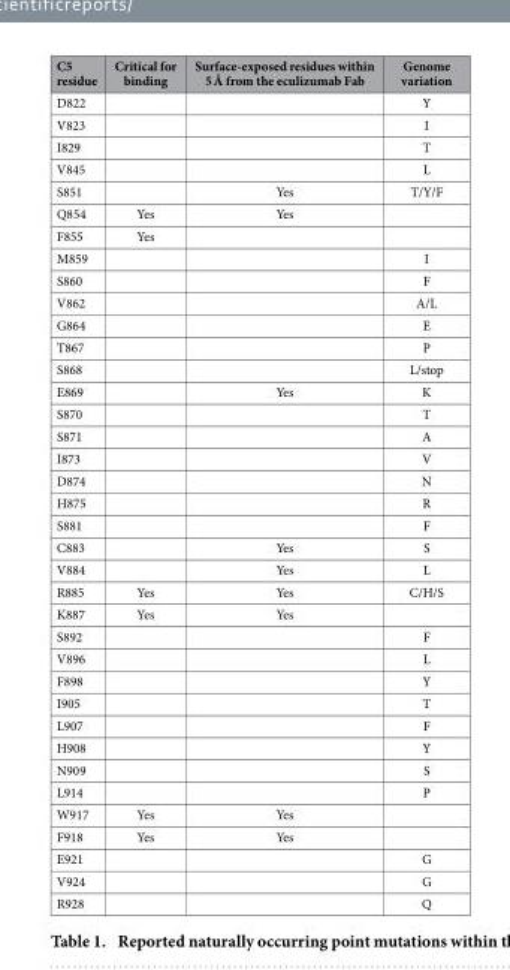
<table><thead><tr><td>C5 residue</td><td>Critical for binding</td><td>Surface-exposed residues within 5 Å from the eculizumab Fab</td><td>Genome variation</td></tr></thead><tbody><tr><td>D822</td><td></td><td></td><td>Y</td></tr><tr><td>V823</td><td></td><td></td><td>I</td></tr><tr><td>I829</td><td></td><td></td><td>T</td></tr><tr><td>V845</td><td></td><td></td><td>L</td></tr><tr><td>S851</td><td></td><td>Yes</td><td>T/Y/F</td></tr><tr><td>Q854</td><td>Yes</td><td>Yes</td><td></td></tr><tr><td>F855</td><td>Yes</td><td></td><td></td></tr><tr><td>M859</td><td></td><td></td><td>I</td></tr><tr><td>S860</td><td></td><td></td><td>F</td></tr><tr><td>V862</td><td></td><td></td><td>A/L</td></tr><tr><td>G864</td><td></td><td></td><td>E</td></tr><tr><td>T867</td><td></td><td></td><td>P</td></tr><tr><td>S868</td><td></td><td></td><td>L/stop</td></tr><tr><td>E869</td><td></td><td>Yes</td><td>K</td></tr><tr><td>S870</td><td></td><td></td><td>T</td></tr><tr><td>S871</td><td></td><td></td><td>A</td></tr><tr><td>I873</td><td></td><td></td><td>V</td></tr><tr><td>D874</td><td></td><td></td><td>N</td></tr><tr><td>H875</td><td></td><td></td><td>R</td></tr><tr><td>S881</td><td></td><td></td><td>F</td></tr><tr><td>C883</td><td></td><td>Yes</td><td>S</td></tr><tr><td>V884</td><td></td><td>Yes</td><td>L</td></tr><tr><td>R885</td><td>Yes</td><td>Yes</td><td>C/H/S</td></tr><tr><td>K887</td><td>Yes</td><td>Yes</td><td></td></tr><tr><td>S892</td><td></td><td></td><td>F</td></tr><tr><td>V896</td><td></td><td></td><td>L</td></tr><tr><td>F898</td><td></td><td></td><td>Y</td></tr><tr><td>I905</td><td></td><td></td><td>T</td></tr><tr><td>L907</td><td></td><td></td><td>F</td></tr><tr><td>H908</td><td></td><td></td><td>Y</td></tr><tr><td>N909</td><td></td><td></td><td>S</td></tr><tr><td>L914</td><td></td><td></td><td>P</td></tr><tr><td>W917</td><td>Yes</td><td>Yes</td><td></td></tr><tr><td>F918</td><td>Yes</td><td>Yes</td><td></td></tr><tr><td>E921</td><td></td><td></td><td>G</td></tr><tr><td>V924</td><td></td><td></td><td>G</td></tr><tr><td>R928</td><td></td><td></td><td>Q</td></tr></tbody></table>